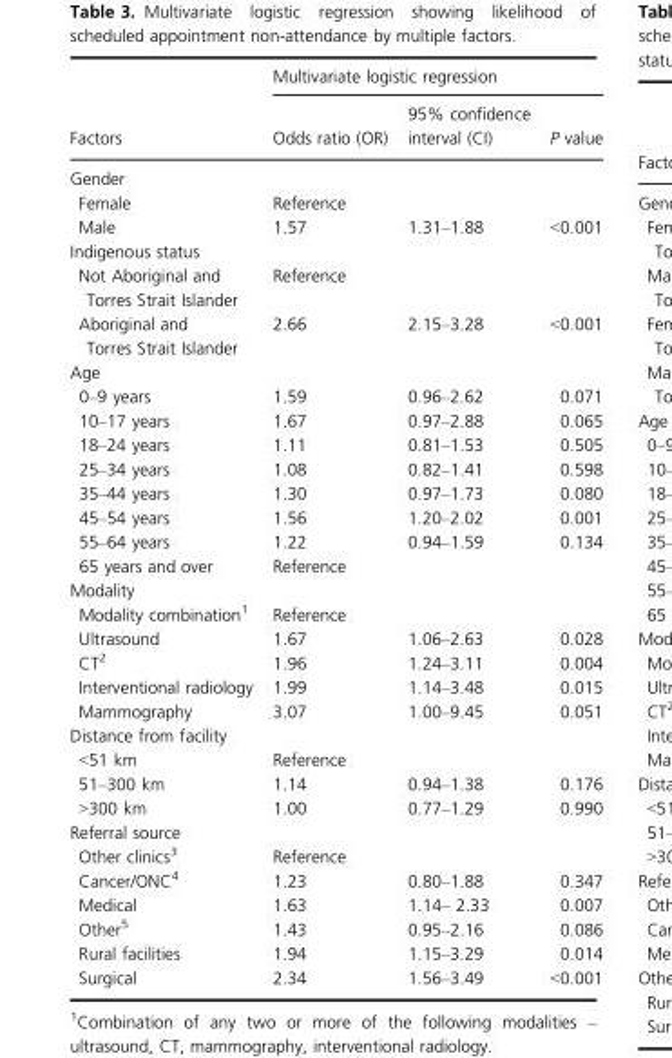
<table><thead><tr><td rowspan="2">Factors</td><td colspan="3">Multivariate logistic regression</td></tr><tr><td>Odds ratio (OR)</td><td>95% confidence interval (CI)</td><td>P value</td></tr></thead><tbody><tr><td colspan="4">Gender</td></tr><tr><td>Female</td><td colspan="3">Reference</td></tr><tr><td>Male</td><td>1.57</td><td>1.31–1.88</td><td>&lt;0.001</td></tr><tr><td colspan="4">Indigenous status</td></tr><tr><td>Not Aboriginal and Torres Strait Islander</td><td colspan="3">Reference</td></tr><tr><td>Aboriginal and Torres Strait Islander</td><td>2.66</td><td>2.15–3.28</td><td>&lt;0.001</td></tr><tr><td colspan="4">Age</td></tr><tr><td>0–9 years</td><td>1.59</td><td>0.96–2.62</td><td>0.071</td></tr><tr><td>10–17 years</td><td>1.67</td><td>0.97–2.88</td><td>0.065</td></tr><tr><td>18–24 years</td><td>1.11</td><td>0.81–1.53</td><td>0.505</td></tr><tr><td>25–34 years</td><td>1.08</td><td>0.82–1.41</td><td>0.598</td></tr><tr><td>35–44 years</td><td>1.30</td><td>0.97–1.73</td><td>0.080</td></tr><tr><td>45–54 years</td><td>1.56</td><td>1.20–2.02</td><td>0.001</td></tr><tr><td>55–64 years</td><td>1.22</td><td>0.94–1.59</td><td>0.134</td></tr><tr><td>65 years and over</td><td colspan="3">Reference</td></tr><tr><td colspan="4">Modality</td></tr><tr><td>Modality combination1</td><td colspan="3">Reference</td></tr><tr><td>Ultrasound</td><td>1.67</td><td>1.06–2.63</td><td>0.028</td></tr><tr><td>CT2</td><td>1.96</td><td>1.24–3.11</td><td>0.004</td></tr><tr><td>Interventional radiology</td><td>1.99</td><td>1.14–3.48</td><td>0.015</td></tr><tr><td>Mammography</td><td>3.07</td><td>1.00–9.45</td><td>0.051</td></tr><tr><td colspan="4">Distance from facility</td></tr><tr><td>&lt;51 km</td><td colspan="3">Reference</td></tr><tr><td>51–300 km</td><td>1.14</td><td>0.94–1.38</td><td>0.176</td></tr><tr><td>&gt;300 km</td><td>1.00</td><td>0.77–1.29</td><td>0.990</td></tr><tr><td colspan="4">Referral source</td></tr><tr><td>Other clinics3</td><td colspan="3">Reference</td></tr><tr><td>Cancer/ONC4</td><td>1.23</td><td>0.80–1.88</td><td>0.347</td></tr><tr><td>Medical</td><td>1.63</td><td>1.14– 2.33</td><td>0.007</td></tr><tr><td>Other5</td><td>1.43</td><td>0.95–2.16</td><td>0.086</td></tr><tr><td>Rural facilities</td><td>1.94</td><td>1.15–3.29</td><td>0.014</td></tr><tr><td>Surgical</td><td>2.34</td><td>1.56–3.49</td><td>&lt;0.001</td></tr></tbody></table>